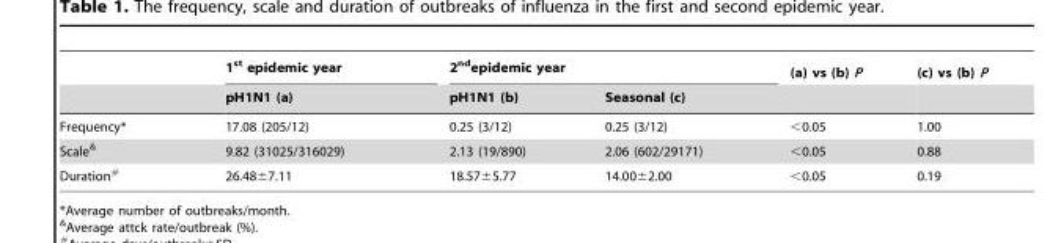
<table><thead><tr><td rowspan="2"></td><td rowspan="2">1<sup>st</sup> epidemic year pH1N1 (a)</td><td colspan="2">2<sup>nd</sup>epidemic year</td><td rowspan="2">(a) vs (b) P</td><td rowspan="2">(c) vs (b) P</td></tr><tr><td>pH1N1 (b)</td><td>Seasonal (c)</td></tr></thead><tbody><tr><td>Frequency*</td><td>17.08 (205/12)</td><td>0.25 (3/12)</td><td>0.25 (3/12)</td><td>&lt;0.05</td><td>1.00</td></tr><tr><td>Scale&amp;</td><td>9.82 (31025/316029)</td><td>2.13 (19/890)</td><td>2.06 (602/29171)</td><td>&lt;0.05</td><td>0.88</td></tr><tr><td>Duration#</td><td>26.48±7.11</td><td>18.57±5.77</td><td>14.00±2.00</td><td>&lt;0.05</td><td>0.19</td></tr></tbody></table>